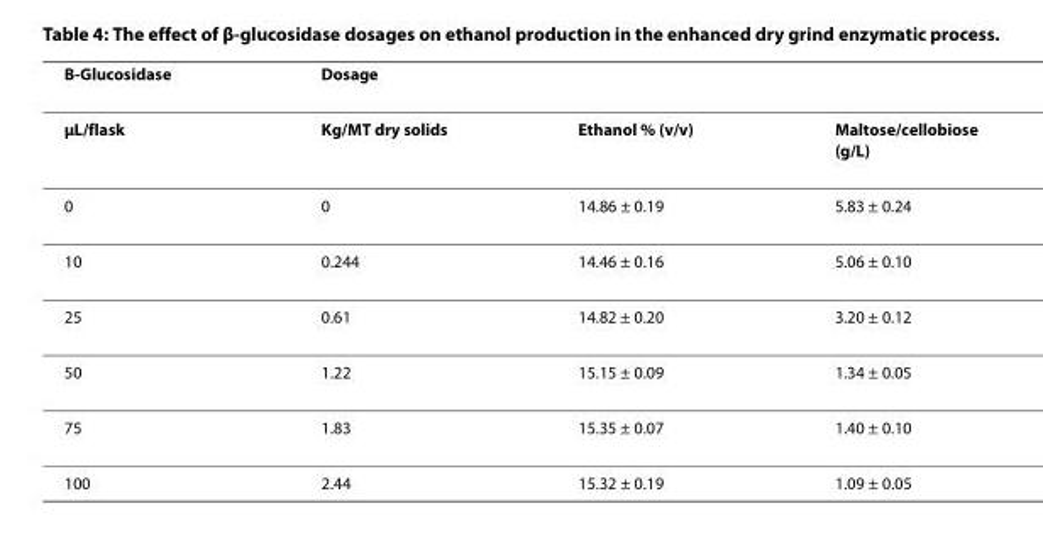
<table><thead><tr><td>B-Glucosidase</td><td>Dosage</td><td></td><td></td></tr></thead><tbody><tr><td>μL/flask</td><td>Kg/MT dry solids</td><td>Ethanol % (v/v)</td><td>Maltose/cellobiose (g/L)</td></tr><tr><td>0</td><td>0</td><td>14.86 ± 0.19</td><td>5.83 ± 0.24</td></tr><tr><td>10</td><td>0.244</td><td>14.46 ± 0.16</td><td>5.06 ± 0.10</td></tr><tr><td>25</td><td>0.61</td><td>14.82 ± 0.20</td><td>3.20 ± 0.12</td></tr><tr><td>50</td><td>1.22</td><td>15.15 ± 0.09</td><td>1.34 ± 0.05</td></tr><tr><td>75</td><td>1.83</td><td>15.35 ± 0.07</td><td>1.40 ± 0.10</td></tr><tr><td>100</td><td>2.44</td><td>15.32 ± 0.19</td><td>1.09 ± 0.05</td></tr></tbody></table>